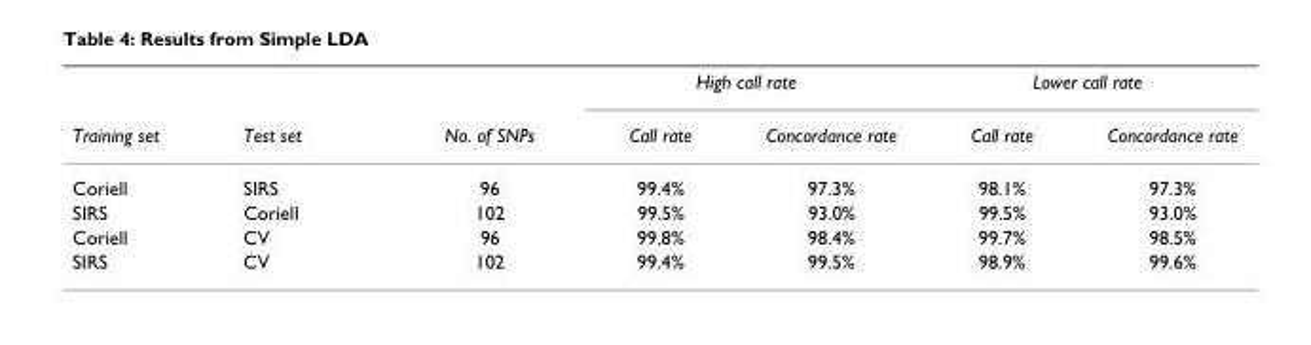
<table><thead><tr><td rowspan="2">Training set</td><td rowspan="2">Test set</td><td rowspan="2">No. of SNPs</td><td colspan="2">High call rate</td><td colspan="2">Lower call rate</td></tr><tr><td>Call rate</td><td>Concordance rate</td><td>Call rate</td><td>Concordance rate</td></tr></thead><tbody><tr><td>Coriell</td><td>SIRS</td><td>96</td><td>99.4%</td><td>97.3%</td><td>98.1%</td><td>97.3%</td></tr><tr><td>SIRS</td><td>Coriell</td><td>102</td><td>99.5%</td><td>93.0%</td><td>99.5%</td><td>93.0%</td></tr><tr><td>Coriell</td><td>CV</td><td>96</td><td>99.8%</td><td>98.4%</td><td>99.7%</td><td>98.5%</td></tr><tr><td>SIRS</td><td>CV</td><td>102</td><td>99.4%</td><td>99.5%</td><td>98.9%</td><td>99.6%</td></tr></tbody></table>